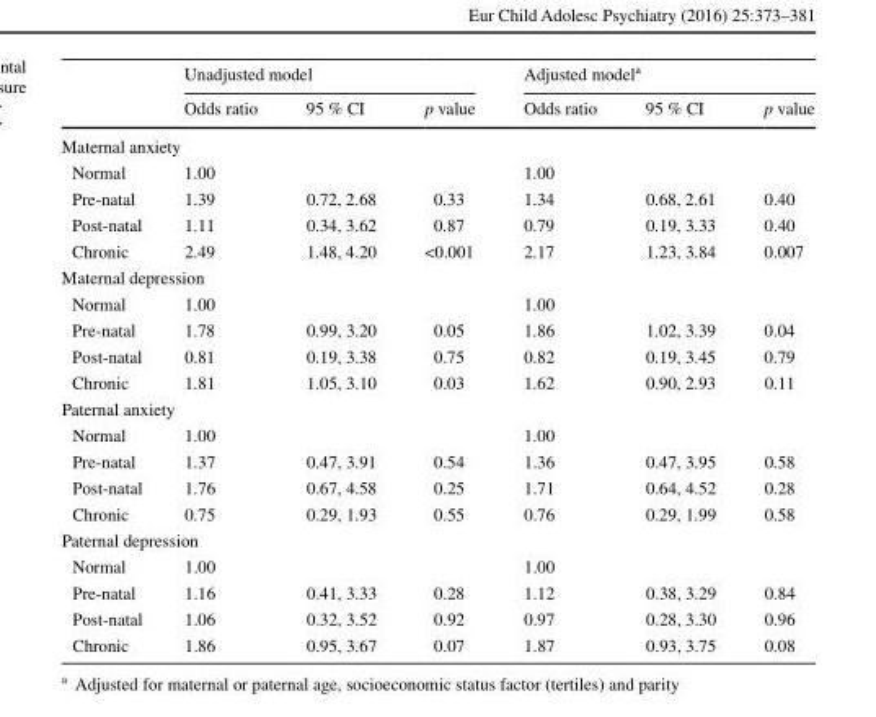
<table><thead><tr><td rowspan="2"></td><td colspan="3">Unadjusted model</td><td colspan="3">Adjusted model<sup>a</sup></td></tr><tr><td>Odds ratio</td><td>95 % CI</td><td>p value</td><td>Odds ratio</td><td>95 % CI</td><td>p value</td></tr></thead><tbody><tr><td colspan="7">Maternal anxiety</td></tr><tr><td>Normal</td><td>1.00</td><td></td><td></td><td>1.00</td><td></td><td></td></tr><tr><td>Pre-natal</td><td>1.39</td><td>0.72, 2.68</td><td>0.33</td><td>1.34</td><td>0.68, 2.61</td><td>0.40</td></tr><tr><td>Post-natal</td><td>1.11</td><td>0.34, 3.62</td><td>0.87</td><td>0.79</td><td>0.19, 3.33</td><td>0.40</td></tr><tr><td>Chronic</td><td>2.49</td><td>1.48, 4.20</td><td>&lt;0.001</td><td>2.17</td><td>1.23, 3.84</td><td>0.007</td></tr><tr><td colspan="7">Maternal depression</td></tr><tr><td>Normal</td><td>1.00</td><td></td><td></td><td>1.00</td><td></td><td></td></tr><tr><td>Pre-natal</td><td>1.78</td><td>0.99, 3.20</td><td>0.05</td><td>1.86</td><td>1.02, 3.39</td><td>0.04</td></tr><tr><td>Post-natal</td><td>0.81</td><td>0.19, 3.38</td><td>0.75</td><td>0.82</td><td>0.19, 3.45</td><td>0.79</td></tr><tr><td>Chronic</td><td>1.81</td><td>1.05, 3.10</td><td>0.03</td><td>1.62</td><td>0.90, 2.93</td><td>0.11</td></tr><tr><td colspan="7">Paternal anxiety</td></tr><tr><td>Normal</td><td>1.00</td><td></td><td></td><td>1.00</td><td></td><td></td></tr><tr><td>Pre-natal</td><td>1.37</td><td>0.47, 3.91</td><td>0.54</td><td>1.36</td><td>0.47, 3.95</td><td>0.58</td></tr><tr><td>Post-natal</td><td>1.76</td><td>0.67, 4.58</td><td>0.25</td><td>1.71</td><td>0.64, 4.52</td><td>0.28</td></tr><tr><td>Chronic</td><td>0.75</td><td>0.29, 1.93</td><td>0.55</td><td>0.76</td><td>0.29, 1.99</td><td>0.58</td></tr><tr><td colspan="7">Paternal depression</td></tr><tr><td>Normal</td><td>1.00</td><td></td><td></td><td>1.00</td><td></td><td></td></tr><tr><td>Pre-natal</td><td>1.16</td><td>0.41, 3.33</td><td>0.28</td><td>1.12</td><td>0.38, 3.29</td><td>0.84</td></tr><tr><td>Post-natal</td><td>1.06</td><td>0.32, 3.52</td><td>0.92</td><td>0.97</td><td>0.28, 3.30</td><td>0.96</td></tr><tr><td>Chronic</td><td>1.86</td><td>0.95, 3.67</td><td>0.07</td><td>1.87</td><td>0.93, 3.75</td><td>0.08</td></tr></tbody></table>